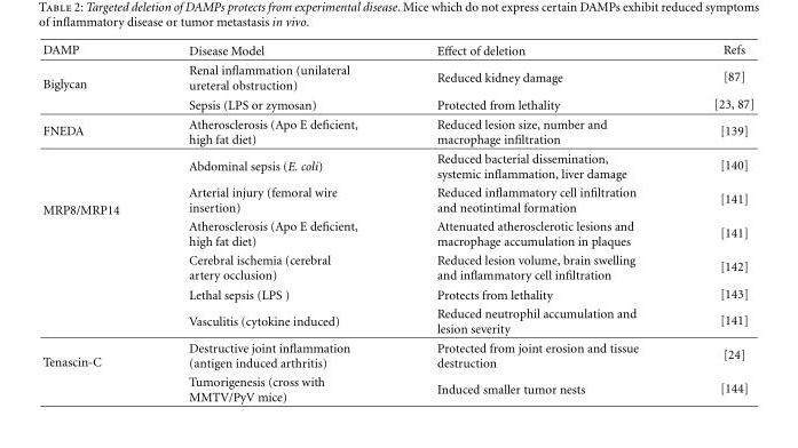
<table><thead><tr><td>DAMP</td><td>Disease Model</td><td>Effect of deletion</td><td>Refs</td></tr></thead><tbody><tr><td rowspan="2">Biglycan</td><td>Renal inflammation (unilateral ureteral obstruction)</td><td>Reduced kidney damage</td><td>[87]</td></tr><tr><td>Sepsis (LPS or zymosan)</td><td>Protected from lethality</td><td>[23, 87]</td></tr><tr><td>FNEDA</td><td>Atherosclerosis (Apo E deficient, high fat diet)</td><td>Reduced lesion size, number and macrophage infiltration</td><td>[139]</td></tr><tr><td rowspan="6">MRP8/MRP14</td><td>Abdominal sepsis (E. coli)</td><td>Reduced bacterial dissemination, systemic inflammation, liver damage</td><td>[140]</td></tr><tr><td>Arterial injury (femoral wire insertion)</td><td>Reduced inflammatory cell infiltration and neotintimal formation</td><td>[141]</td></tr><tr><td>Atherosclerosis (Apo E deficient, high fat diet)</td><td>Attenuated atherosclerotic lesions and macrophage accumulation in plaques</td><td>[141]</td></tr><tr><td>Cerebral ischemia (cerebral artery occlusion)</td><td>Reduced lesion volume, brain swelling and inflammatory cell infiltration</td><td>[142]</td></tr><tr><td>Lethal sepsis (LPS )</td><td>Protects from lethality</td><td>[143]</td></tr><tr><td>Vasculitis (cytokine induced)</td><td>Reduced neutrophil accumulation and lesion severity</td><td>[141]</td></tr><tr><td rowspan="2">Tenascin-C</td><td>Destructive joint inflammation (antigen induced arthritis)</td><td>Protected from joint erosion and tissue destruction</td><td>[24]</td></tr><tr><td>Tumorigenesis (cross with MMTV/PyV mice)</td><td>Induced smaller tumor nests</td><td>[144]</td></tr></tbody></table>